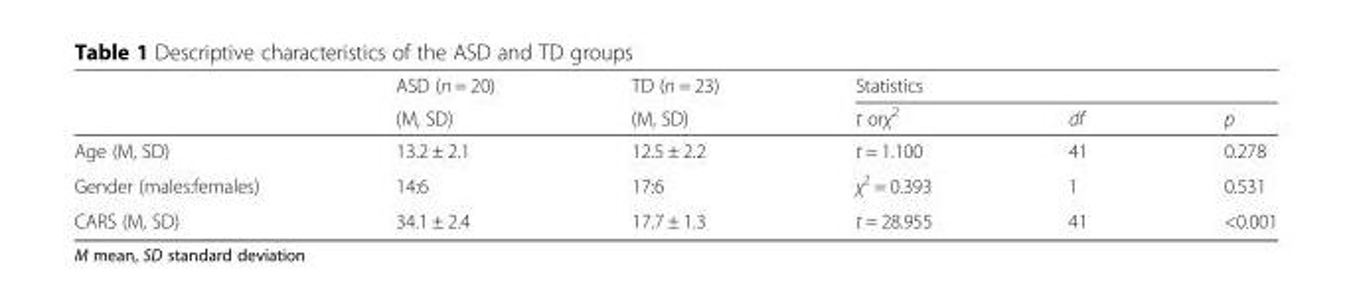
<table><thead><tr><td rowspan="2"></td><td rowspan="2">ASD (n = 20) (M, SD)</td><td rowspan="2">TD (n = 23) (M, SD)</td><td colspan="3">Statistics</td></tr><tr><td>t orχ<sup>2</sup></td><td>df</td><td>p</td></tr></thead><tbody><tr><td>Age (M, SD)</td><td>13.2 ± 2.1</td><td>12.5 ± 2.2</td><td>t = 1.100</td><td>41</td><td>0.278</td></tr><tr><td>Gender (males:females)</td><td>14:6</td><td>17:6</td><td>χ<sup>2</sup> = 0.393</td><td>1</td><td>0.531</td></tr><tr><td>CARS (M, SD)</td><td>34.1 ± 2.4</td><td>17.7 ± 1.3</td><td>t = 28.955</td><td>41</td><td>&lt;0.001</td></tr></tbody></table>